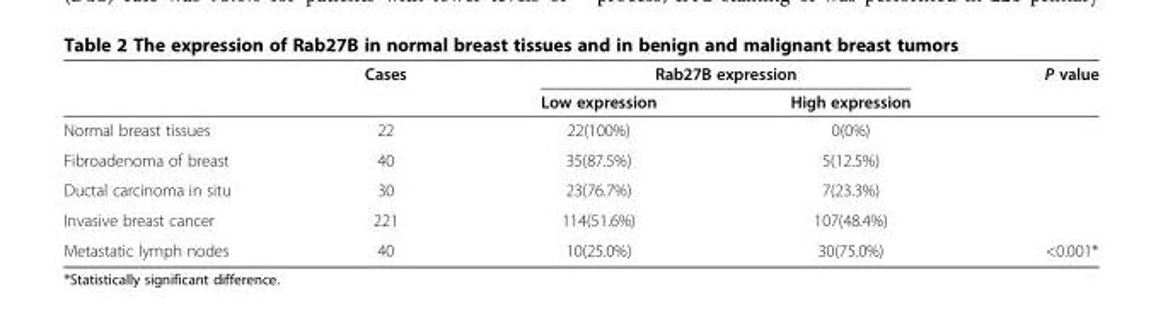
<table><thead><tr><td rowspan="2"></td><td rowspan="2">Cases</td><td colspan="2">Rab27B expression</td><td rowspan="2">P value</td></tr><tr><td>Low expression</td><td>High expression</td></tr></thead><tbody><tr><td>Normal breast tissues</td><td>22</td><td>22(100%)</td><td>0(0%)</td><td></td></tr><tr><td>Fibroadenoma of breast</td><td>40</td><td>35(87.5%)</td><td>5(12.5%)</td><td></td></tr><tr><td>Ductal carcinoma in situ</td><td>30</td><td>23(76.7%)</td><td>7(23.3%)</td><td></td></tr><tr><td>Invasive breast cancer</td><td>221</td><td>114(51.6%)</td><td>107(48.4%)</td><td></td></tr><tr><td>Metastatic lymph nodes</td><td>40</td><td>10(25.0%)</td><td>30(75.0%)</td><td>&lt;0.001*</td></tr></tbody></table>